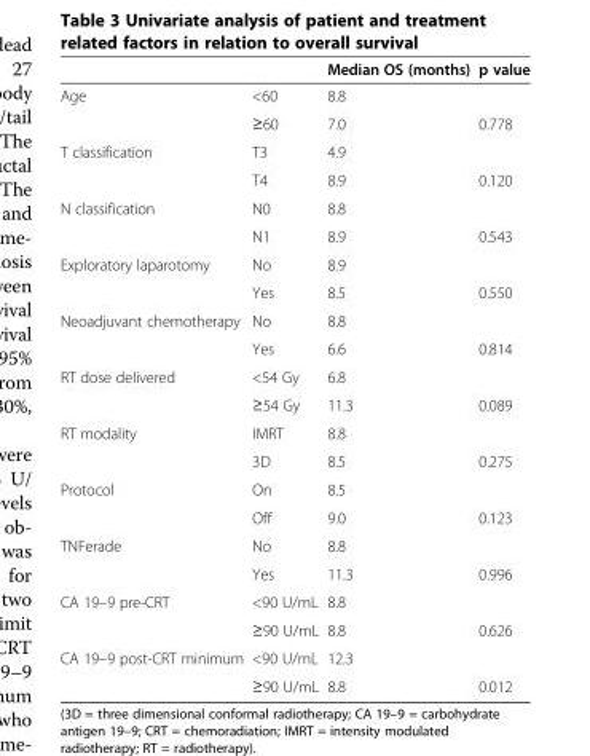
<table><thead><tr><td></td><td></td><td>Median OS (months)</td><td>p value</td></tr></thead><tbody><tr><td rowspan="2">Age</td><td>&lt;60</td><td>8.8</td><td></td></tr><tr><td>≥60</td><td>7.0</td><td>0.778</td></tr><tr><td rowspan="2">T classification</td><td>T3</td><td>4.9</td><td></td></tr><tr><td>T4</td><td>8.9</td><td>0.120</td></tr><tr><td rowspan="2">N classification</td><td>N0</td><td>8.8</td><td></td></tr><tr><td>N1</td><td>8.9</td><td>0.543</td></tr><tr><td rowspan="2">Exploratory laparotomy</td><td>No</td><td>8.9</td><td></td></tr><tr><td>Yes</td><td>8.5</td><td>0.550</td></tr><tr><td rowspan="2">Neoadjuvant chemotherapy</td><td>No</td><td>8.8</td><td></td></tr><tr><td>Yes</td><td>6.6</td><td>0.814</td></tr><tr><td rowspan="2">RT dose delivered</td><td>&lt;54 Gy</td><td>6.8</td><td></td></tr><tr><td>≥54 Gy</td><td>11.3</td><td>0.089</td></tr><tr><td rowspan="2">RT modality</td><td>IMRT</td><td>8.8</td><td></td></tr><tr><td>3D</td><td>8.5</td><td>0.275</td></tr><tr><td rowspan="2">Protocol</td><td>On</td><td>8.5</td><td></td></tr><tr><td>Off</td><td>9.0</td><td>0.123</td></tr><tr><td rowspan="2">TNFerade</td><td>No</td><td>8.8</td><td></td></tr><tr><td>Yes</td><td>11.3</td><td>0.996</td></tr><tr><td rowspan="2">CA 19–9 pre-CRT</td><td>&lt;90 U/mL</td><td>8.8</td><td></td></tr><tr><td>≥90 U/mL</td><td>8.8</td><td>0.626</td></tr><tr><td rowspan="2">CA 19–9 post-CRT minimum</td><td>&lt;90 U/mL</td><td>12.3</td><td></td></tr><tr><td>≥90 U/mL</td><td>8.8</td><td>0.012</td></tr></tbody></table>